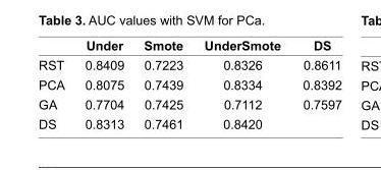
<table><thead><tr><td></td><td>Under</td><td>Smote</td><td>UnderSmote</td><td>DS</td></tr></thead><tbody><tr><td>RST</td><td>0.8409</td><td>0.7223</td><td>0.8326</td><td>0.8611</td></tr><tr><td>PCA</td><td>0.8075</td><td>0.7439</td><td>0.8334</td><td>0.8392</td></tr><tr><td>GA</td><td>0.7704</td><td>0.7425</td><td>0.7112</td><td>0.7597</td></tr><tr><td>DS</td><td>0.8313</td><td>0.7461</td><td>0.8420</td><td></td></tr></tbody></table>